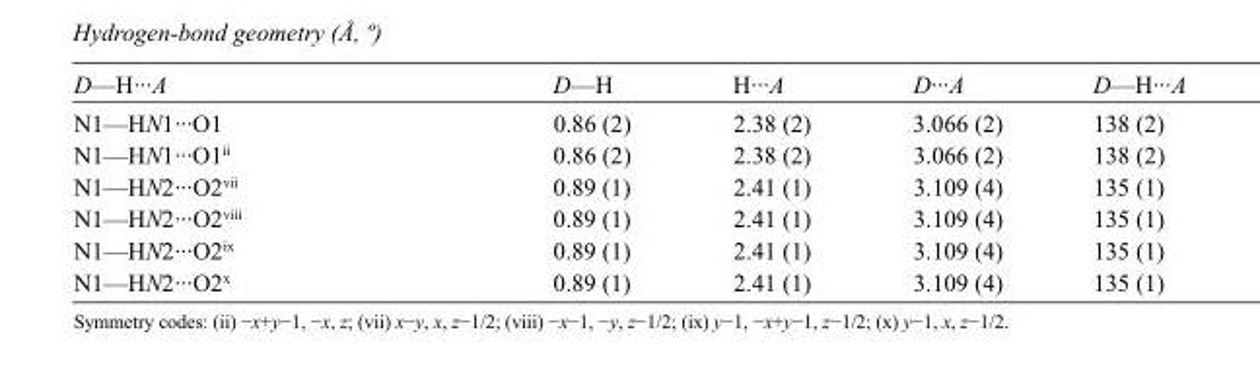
<table><tbody><tr><td>D—H···A</td><td>D—H</td><td>H···A</td><td>D···A</td><td>D—H···A</td></tr><tr><td>N1—HN1···O1</td><td>0.86 (2)</td><td>2.38 (2)</td><td>3.066 (2)</td><td>138 (2)</td></tr><tr><td>N1—HN1···O1<sup>ii</sup></td><td>0.86 (2)</td><td>2.38 (2)</td><td>3.066 (2)</td><td>138 (2)</td></tr><tr><td>N1—HN2···O2<sup>vii</sup></td><td>0.89 (1)</td><td>2.41 (1)</td><td>3.109 (4)</td><td>135 (1)</td></tr><tr><td>N1—HN2···O2<sup>viii</sup></td><td>0.89 (1)</td><td>2.41 (1)</td><td>3.109 (4)</td><td>135 (1)</td></tr><tr><td>N1—HN2···O2<sup>ix</sup></td><td>0.89 (1)</td><td>2.41 (1)</td><td>3.109 (4)</td><td>135 (1)</td></tr><tr><td>N1—HN2···O2<sup>x</sup></td><td>0.89 (1)</td><td>2.41 (1)</td><td>3.109 (4)</td><td>135 (1)</td></tr></tbody></table>